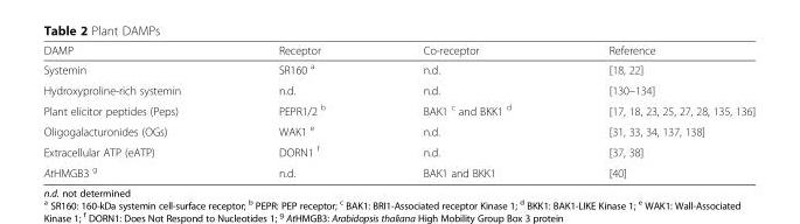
<table><thead><tr><td>DAMP</td><td>Receptor</td><td>Co-receptor</td><td>Reference</td></tr></thead><tbody><tr><td>Systemin</td><td>SR160 <sup>a</sup></td><td>n.d.</td><td>[18, 22]</td></tr><tr><td>Hydroxyproline-rich systemin</td><td>n.d.</td><td>n.d.</td><td>[130–134]</td></tr><tr><td>Plant elicitor peptides (Peps)</td><td>PEPR1/2 <sup>b</sup></td><td>BAK1 <sup>c</sup> and BKK1 <sup>d</sup></td><td>[17, 18, 23, 25, 27, 28, 135, 136]</td></tr><tr><td>Oligogalacturonides (OGs)</td><td>WAK1 <sup>e</sup></td><td>n.d.</td><td>[31, 33, 34, 137, 138]</td></tr><tr><td>Extracellular ATP (eATP)</td><td>DORN1 <sup>f</sup></td><td>n.d.</td><td>[37, 38]</td></tr><tr><td>AtHMGB3 <sup>g</sup></td><td>n.d.</td><td>BAK1 and BKK1</td><td>[40]</td></tr></tbody></table>